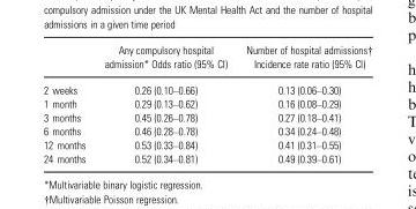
<table><thead><tr><td></td><td>Any compulsory hospital admission* Odds ratio (95% CI)</td><td>Number of hospital admissions† Incidence rate ratio (95% CI)</td></tr></thead><tbody><tr><td>2 weeks</td><td>0.26 (0.10–0.66)</td><td>0.13 (0.06–0.30)</td></tr><tr><td>1 month</td><td>0.29 (0.13–0.62)</td><td>0.16 (0.08–0.29)</td></tr><tr><td>3 months</td><td>0.45 (0.26–0.78)</td><td>0.27 (0.18–0.41)</td></tr><tr><td>6 months</td><td>0.46 (0.28–0.78)</td><td>0.34 (0.24–0.48)</td></tr><tr><td>12 months</td><td>0.53 (0.33–0.84)</td><td>0.41 (0.31–0.55)</td></tr><tr><td>24 months</td><td>0.52 (0.34–0.81)</td><td>0.49 (0.39–0.61)</td></tr></tbody></table>